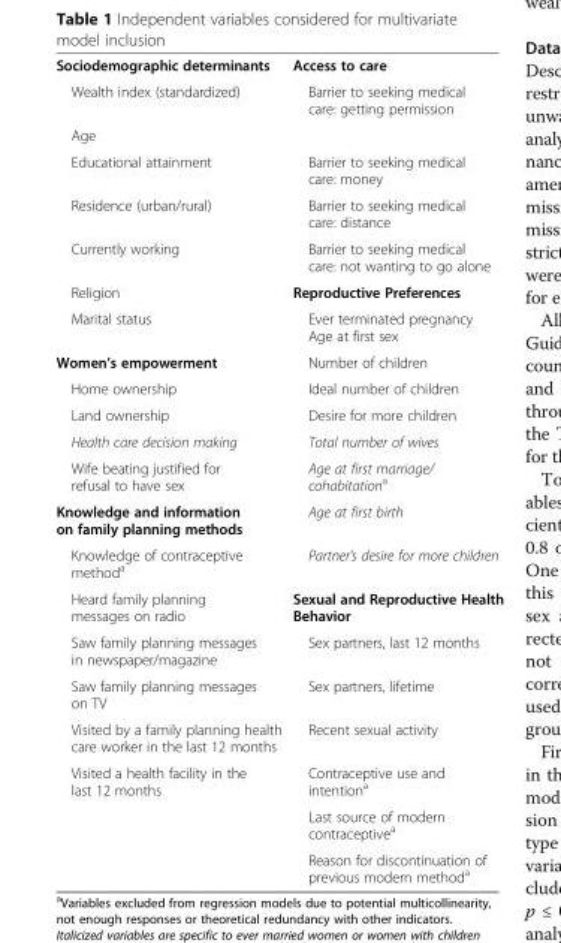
<table><tbody><tr><td>Sociodemographic determinants</td><td>Access to care</td></tr><tr><td>Wealth index (standardized)</td><td>Barrier to seeking medical care: getting permission</td></tr><tr><td colspan="2">Age</td></tr><tr><td>Educational attainment</td><td>Barrier to seeking medical care: money</td></tr><tr><td>Residence (urban/rural)</td><td>Barrier to seeking medical care: distance</td></tr><tr><td>Currently working</td><td>Barrier to seeking medical care: not wanting to go alone</td></tr><tr><td>Religion</td><td>Reproductive Preferences</td></tr><tr><td>Marital status</td><td>Ever terminated pregnancy Age at first sex</td></tr><tr><td>Women’s empowerment</td><td>Number of children</td></tr><tr><td>Home ownership</td><td>Ideal number of children</td></tr><tr><td>Land ownership</td><td>Desire for more children</td></tr><tr><td>Health care decision making</td><td>Total number of wives</td></tr><tr><td>Wife beating justified for refusal to have sex</td><td>Age at first marriage/ cohabitation<sup>a</sup></td></tr><tr><td>Knowledge and information on family planning methods</td><td>Age at first birth</td></tr><tr><td>Knowledge of contraceptive method<sup>a</sup></td><td>Partner’s desire for more children</td></tr><tr><td>Heard family planning messages on radio</td><td>Sexual and Reproductive Health Behavior</td></tr><tr><td>Saw family planning messages in newspaper/magazine</td><td>Sex partners, last 12 months</td></tr><tr><td>Saw family planning messages on TV</td><td>Sex partners, lifetime</td></tr><tr><td>Visited by a family planning health care worker in the last 12 months</td><td>Recent sexual activity</td></tr><tr><td rowspan="3">Visited a health facility in the last 12 months</td><td>Contraceptive use and intention<sup>a</sup></td></tr><tr><td>Last source of modern contraceptive<sup>a</sup></td></tr><tr><td>Reason for discontinuation of previous modern method<sup>a</sup></td></tr></tbody></table>